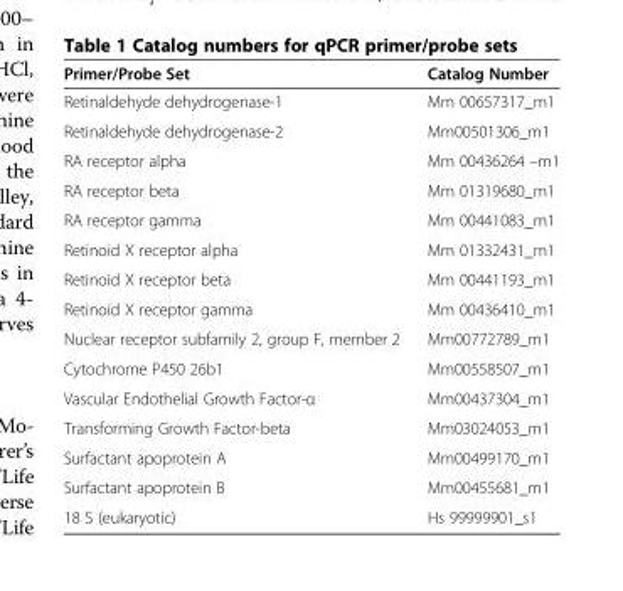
<table><thead><tr><td>Primer/Probe Set</td><td>Catalog Number</td></tr></thead><tbody><tr><td>Retinaldehyde dehydrogenase-1</td><td>Mm 00657317_m1</td></tr><tr><td>Retinaldehyde dehydrogenase-2</td><td>Mm00501306_m1</td></tr><tr><td>RA receptor alpha</td><td>Mm 00436264 –m1</td></tr><tr><td>RA receptor beta</td><td>Mm 01319680_m1</td></tr><tr><td>RA receptor gamma</td><td>Mm 00441083_m1</td></tr><tr><td>Retinoid X receptor alpha</td><td>Mm 01332431_m1</td></tr><tr><td>Retinoid X receptor beta</td><td>Mm 00441193_m1</td></tr><tr><td>Retinoid X receptor gamma</td><td>Mm 00436410_m1</td></tr><tr><td>Nuclear receptor subfamily 2, group F, member 2</td><td>Mm00772789_m1</td></tr><tr><td>Cytochrome P450 26b1</td><td>Mm00558507_m1</td></tr><tr><td>Vascular Endothelial Growth Factor-α</td><td>Mm00437304_m1</td></tr><tr><td>Transforming Growth Factor-beta</td><td>Mm03024053_m1</td></tr><tr><td>Surfactant apoprotein A</td><td>Mm00499170_m1</td></tr><tr><td>Surfactant apoprotein B</td><td>Mm00455681_m1</td></tr><tr><td>18 S (eukaryotic)</td><td>Hs 99999901_s1</td></tr></tbody></table>